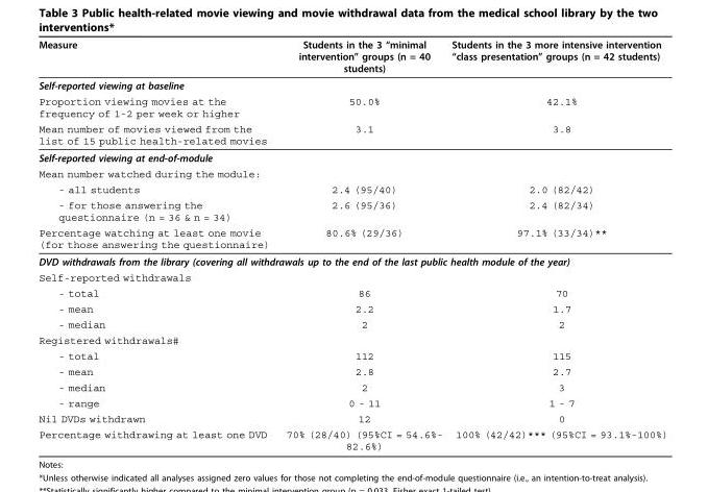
<table><thead><tr><td>Measure</td><td>Students in the 3 “minimal intervention” groups (n = 40 students)</td><td>Students in the 3 more intensive intervention “class presentation” groups (n = 42 students)</td></tr></thead><tbody><tr><td colspan="3">Self-reported viewing at baseline</td></tr><tr><td>Proportion viewing movies at the frequency of 1-2 per week or higher</td><td>50.0%</td><td>42.1%</td></tr><tr><td>Mean number of movies viewed from the list of 15 public health-related movies</td><td>3.1</td><td>3.8</td></tr><tr><td colspan="3">Self-reported viewing at end-of-module</td></tr><tr><td colspan="3">Mean number watched during the module:</td></tr><tr><td>- all students</td><td>2.4 (95/40)</td><td>2.0 (82/42)</td></tr><tr><td>- for those answering the questionnaire (n = 36 &amp; n = 34)</td><td>2.6 (95/36)</td><td>2.4 (82/34)</td></tr><tr><td>Percentage watching at least one movie (for those answering the questionnaire)</td><td>80.6% (29/36)</td><td>97.1% (33/34)**</td></tr><tr><td colspan="3">DVD withdrawals from the library (covering all withdrawals up to the end of the last public health module of the year)</td></tr><tr><td colspan="3">Self-reported withdrawals</td></tr><tr><td>- total</td><td>86</td><td>70</td></tr><tr><td>- mean</td><td>2.2</td><td>1.7</td></tr><tr><td>- median</td><td>2</td><td>2</td></tr><tr><td colspan="3">Registered withdrawals#</td></tr><tr><td>- total</td><td>112</td><td>115</td></tr><tr><td>- mean</td><td>2.8</td><td>2.7</td></tr><tr><td>- median</td><td>2</td><td>3</td></tr><tr><td>- range</td><td>0 - 11</td><td>1 - 7</td></tr><tr><td>Nil DVDs withdrawn</td><td>12</td><td>0</td></tr><tr><td>Percentage withdrawing at least one DVD</td><td>70% (28/40) (95%CI = 54.6%- 82.6%)</td><td>100% (42/42)*** (95%CI = 93.1%-100%)</td></tr></tbody></table>